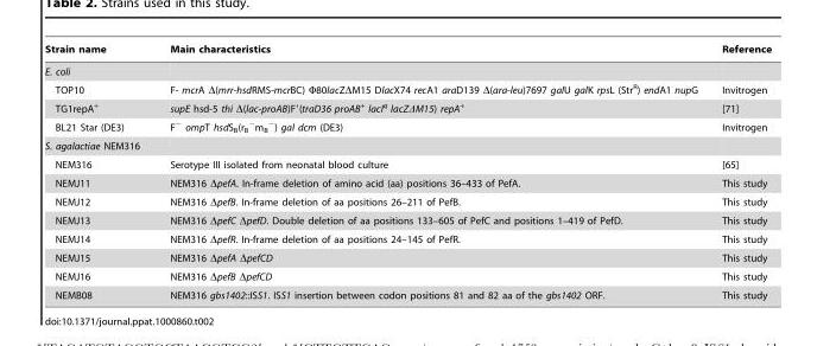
<table><thead><tr><td>Strain name</td><td>Main characteristics</td><td>Reference</td></tr></thead><tbody><tr><td colspan="3">E. coli</td></tr><tr><td>TOP10</td><td>F- mcrA Δ(mrr-hsdRMS-mcrBC) Φ80lacZΔM15 DlacX74 recA1 araD139 Δ(ara-leu)7697 galU galK rpsL (Str<sup>R</sup>) endA1 nupG</td><td>Invitrogen</td></tr><tr><td>TG1repA<sup>+</sup></td><td>supE hsd-5 thi Δ(lac-proAB)F′(traD36 proAB<sup>+</sup> lacI<sup>q</sup> lacZΔM15) repA<sup>+</sup></td><td>[71]</td></tr><tr><td>BL21 Star (DE3)</td><td>F<sup>−</sup> ompT hsdS<sub>B</sub>(r<sub>B</sub> <sup>−</sup>m<sub>B</sub> <sup>−</sup>) gal dcm (DE3)</td><td>Invitrogen</td></tr><tr><td colspan="3">S. agalactiae NEM316</td></tr><tr><td>NEM316</td><td>Serotype III isolated from neonatal blood culture</td><td>[65]</td></tr><tr><td>NEMJ11</td><td>NEM316 ΔpefA. In-frame deletion of amino acid (aa) positions 36–433 of PefA.</td><td>This study</td></tr><tr><td>NEMJ12</td><td>NEM316 ΔpefB. In-frame deletion of aa positions 26–211 of PefB.</td><td>This study</td></tr><tr><td>NEMJ13</td><td>NEM316 ΔpefC ΔpefD. Double deletion of aa positions 133–605 of PefC and positions 1–419 of PefD.</td><td>This study</td></tr><tr><td>NEMJ14</td><td>NEM316 ΔpefR. In-frame deletion of aa positions 24–145 of PefR.</td><td>This study</td></tr><tr><td>NEMJ15</td><td>NEM316 ΔpefA ΔpefCD</td><td>This study</td></tr><tr><td>NEMJ16</td><td>NEM316 ΔpefB ΔpefCD</td><td>This study</td></tr><tr><td>NEMB08</td><td>NEM316 gbs1402::ISS1. ISS1 insertion between codon positions 81 and 82 aa of the gbs1402 ORF.</td><td>This study</td></tr></tbody></table>